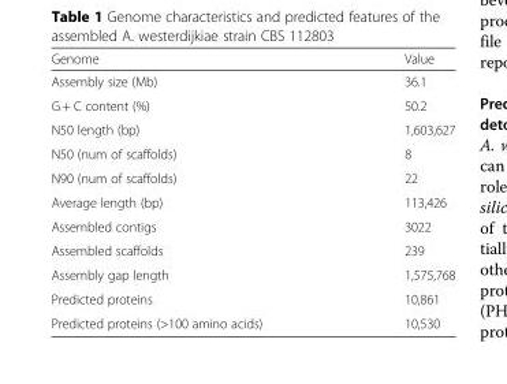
<table><thead><tr><td>Genome</td><td>Value</td></tr></thead><tbody><tr><td>Assembly size (Mb)</td><td>36.1</td></tr><tr><td>G + C content (%)</td><td>50.2</td></tr><tr><td>N50 length (bp)</td><td>1,603,627</td></tr><tr><td>N50 (num of scaffolds)</td><td>8</td></tr><tr><td>N90 (num of scaffolds)</td><td>22</td></tr><tr><td>Average length (bp)</td><td>113,426</td></tr><tr><td>Assembled contigs</td><td>3022</td></tr><tr><td>Assembled scaffolds</td><td>239</td></tr><tr><td>Assembly gap length</td><td>1,575,768</td></tr><tr><td>Predicted proteins</td><td>10,861</td></tr><tr><td>Predicted proteins (&gt;100 amino acids)</td><td>10,530</td></tr></tbody></table>